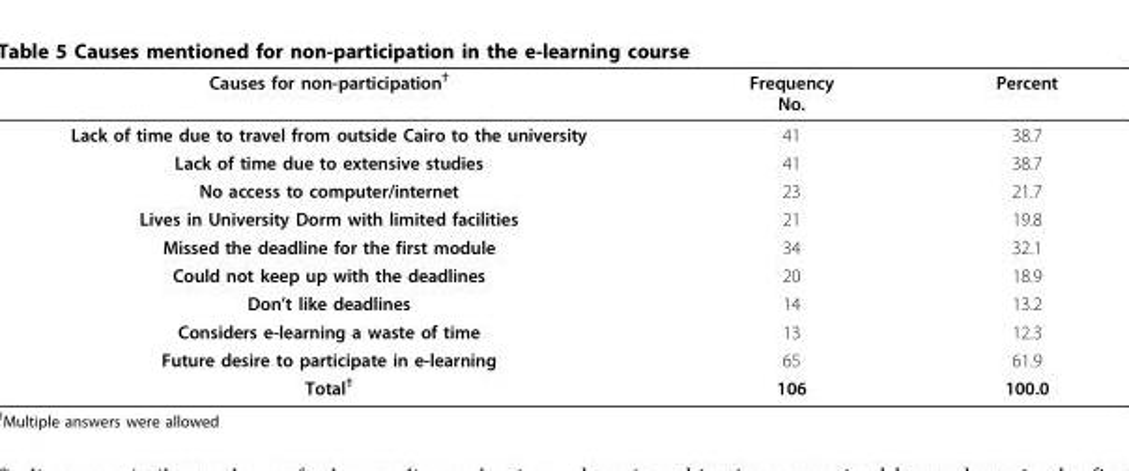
<table><thead><tr><td>Causes for non-participation<sup>†</sup></td><td>Frequency No.</td><td>Percent</td></tr></thead><tbody><tr><td>Lack of time due to travel from outside Cairo to the university</td><td>41</td><td>38.7</td></tr><tr><td>Lack of time due to extensive studies</td><td>41</td><td>38.7</td></tr><tr><td>No access to computer/internet</td><td>23</td><td>21.7</td></tr><tr><td>Lives in University Dorm with limited facilities</td><td>21</td><td>19.8</td></tr><tr><td>Missed the deadline for the first module</td><td>34</td><td>32.1</td></tr><tr><td>Could not keep up with the deadlines</td><td>20</td><td>18.9</td></tr><tr><td>Don’t like deadlines</td><td>14</td><td>13.2</td></tr><tr><td>Considers e-learning a waste of time</td><td>13</td><td>12.3</td></tr><tr><td>Future desire to participate in e-learning</td><td>65</td><td>61.9</td></tr><tr><td>Total<sup>†</sup></td><td>106</td><td>100.0</td></tr></tbody></table>